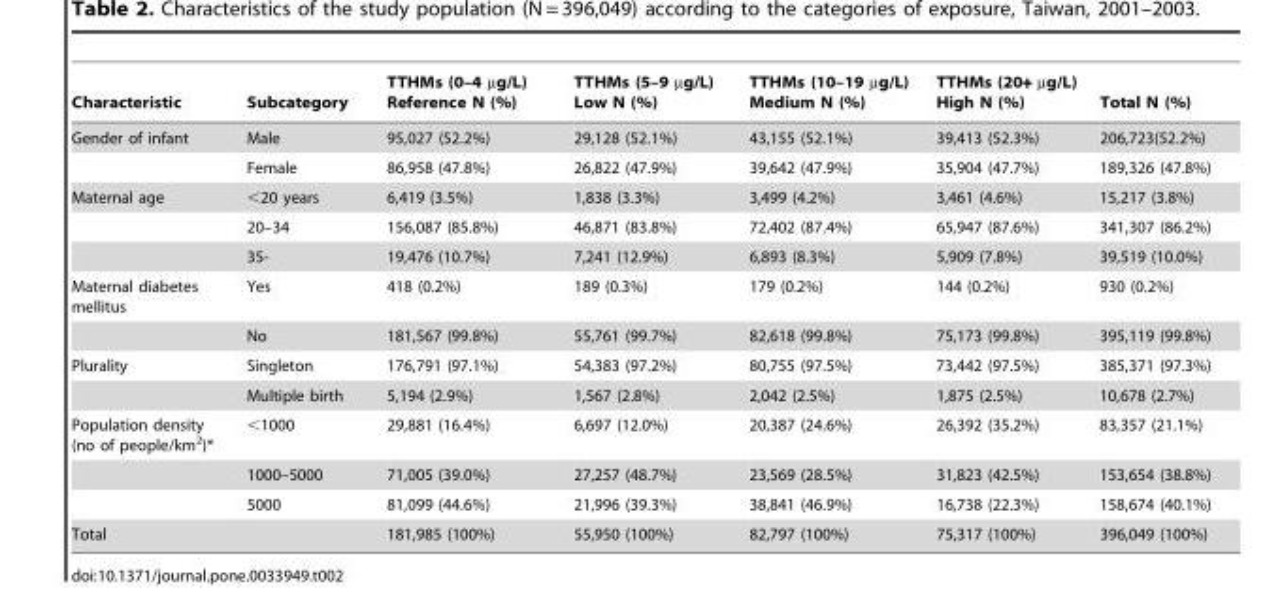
<table><thead><tr><td>Characteristic</td><td>Subcategory</td><td>TTHMs (0–4 µg/L) Reference N (%)</td><td>TTHMs (5–9 µg/L) Low N (%)</td><td>TTHMs (10–19 µg/L) Medium N (%)</td><td>TTHMs (20+ µg/L) High N (%)</td><td>Total N (%)</td></tr></thead><tbody><tr><td rowspan="2">Gender of infant</td><td>Male</td><td>95,027 (52.2%)</td><td>29,128 (52.1%)</td><td>43,155 (52.1%)</td><td>39,413 (52.3%)</td><td>206,723(52.2%)</td></tr><tr><td>Female</td><td>86,958 (47.8%)</td><td>26,822 (47.9%)</td><td>39,642 (47.9%)</td><td>35,904 (47.7%)</td><td>189,326 (47.8%)</td></tr><tr><td rowspan="3">Maternal age</td><td>&lt;20 years</td><td>6,419 (3.5%)</td><td>1,838 (3.3%)</td><td>3,499 (4.2%)</td><td>3,461 (4.6%)</td><td>15,217 (3.8%)</td></tr><tr><td>20–34</td><td>156,087 (85.8%)</td><td>46,871 (83.8%)</td><td>72,402 (87.4%)</td><td>65,947 (87.6%)</td><td>341,307 (86.2%)</td></tr><tr><td>35-</td><td>19,476 (10.7%)</td><td>7,241 (12.9%)</td><td>6,893 (8.3%)</td><td>5,909 (7.8%)</td><td>39,519 (10.0%)</td></tr><tr><td rowspan="2">Maternal diabetes mellitus</td><td>Yes</td><td>418 (0.2%)</td><td>189 (0.3%)</td><td>179 (0.2%)</td><td>144 (0.2%)</td><td>930 (0.2%)</td></tr><tr><td>No</td><td>181,567 (99.8%)</td><td>55,761 (99.7%)</td><td>82,618 (99.8%)</td><td>75,173 (99.8%)</td><td>395,119 (99.8%)</td></tr><tr><td rowspan="2">Plurality</td><td>Singleton</td><td>176,791 (97.1%)</td><td>54,383 (97.2%)</td><td>80,755 (97.5%)</td><td>73,442 (97.5%)</td><td>385,371 (97.3%)</td></tr><tr><td>Multiple birth</td><td>5,194 (2.9%)</td><td>1,567 (2.8%)</td><td>2,042 (2.5%)</td><td>1,875 (2.5%)</td><td>10,678 (2.7%)</td></tr><tr><td rowspan="3">Population density (no of people/km<sup>2</sup>)*</td><td>&lt;1000</td><td>29,881 (16.4%)</td><td>6,697 (12.0%)</td><td>20,387 (24.6%)</td><td>26,392 (35.2%)</td><td>83,357 (21.1%)</td></tr><tr><td>1000–5000</td><td>71,005 (39.0%)</td><td>27,257 (48.7%)</td><td>23,569 (28.5%)</td><td>31,823 (42.5%)</td><td>153,654 (38.8%)</td></tr><tr><td>5000</td><td>81,099 (44.6%)</td><td>21,996 (39.3%)</td><td>38,841 (46.9%)</td><td>16,738 (22.3%)</td><td>158,674 (40.1%)</td></tr><tr><td>Total</td><td></td><td>181,985 (100%)</td><td>55,950 (100%)</td><td>82,797 (100%)</td><td>75,317 (100%)</td><td>396,049 (100%)</td></tr></tbody></table>